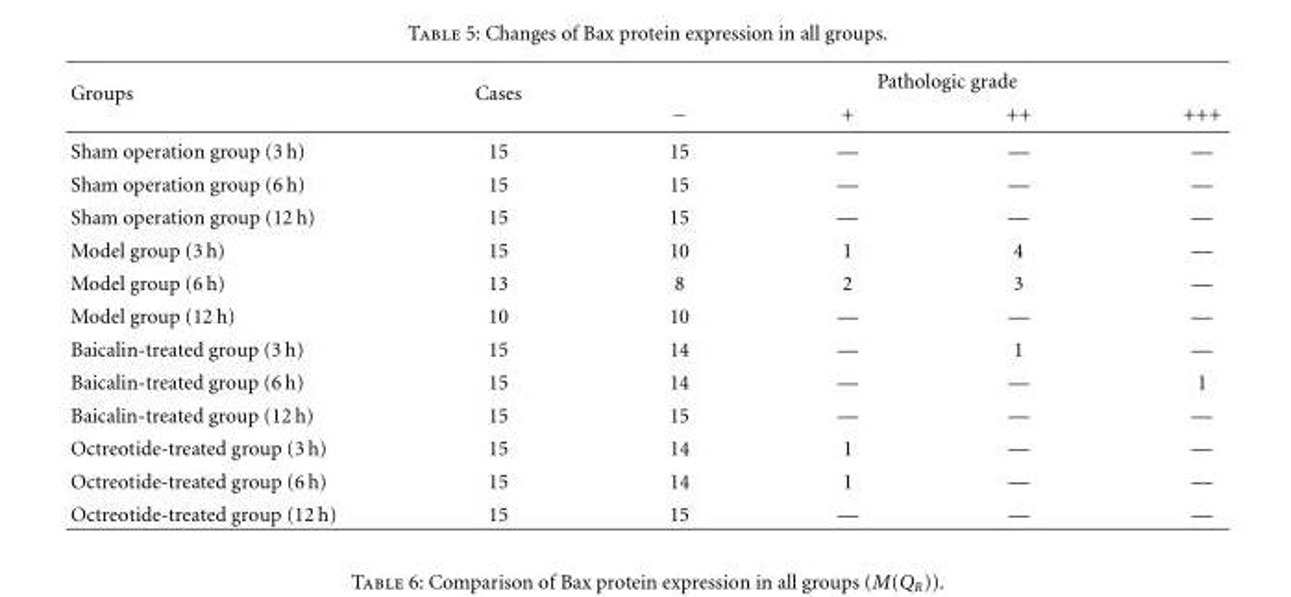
<table><thead><tr><td rowspan="2">Groups</td><td rowspan="2">Cases</td><td colspan="4">Pathologic grade</td></tr><tr><td>−</td><td>+</td><td>++</td><td>+++</td></tr></thead><tbody><tr><td>Sham operation group (3 h)</td><td>15</td><td>15</td><td>—</td><td>—</td><td>—</td></tr><tr><td>Sham operation group (6 h)</td><td>15</td><td>15</td><td>—</td><td>—</td><td>—</td></tr><tr><td>Sham operation group (12 h)</td><td>15</td><td>15</td><td>—</td><td>—</td><td>—</td></tr><tr><td>Model group (3 h)</td><td>15</td><td>10</td><td>1</td><td>4</td><td>—</td></tr><tr><td>Model group (6 h)</td><td>13</td><td>8</td><td>2</td><td>3</td><td>—</td></tr><tr><td>Model group (12 h)</td><td>10</td><td>10</td><td>—</td><td>—</td><td>—</td></tr><tr><td>Baicalin-treated group (3 h)</td><td>15</td><td>14</td><td>—</td><td>1</td><td>—</td></tr><tr><td>Baicalin-treated group (6 h)</td><td>15</td><td>14</td><td>—</td><td>—</td><td>1</td></tr><tr><td>Baicalin-treated group (12 h)</td><td>15</td><td>15</td><td>—</td><td>—</td><td>—</td></tr><tr><td>Octreotide-treated group (3 h)</td><td>15</td><td>14</td><td>1</td><td>—</td><td>—</td></tr><tr><td>Octreotide-treated group (6 h)</td><td>15</td><td>14</td><td>1</td><td>—</td><td>—</td></tr><tr><td>Octreotide-treated group (12 h)</td><td>15</td><td>15</td><td>—</td><td>—</td><td>—</td></tr></tbody></table>